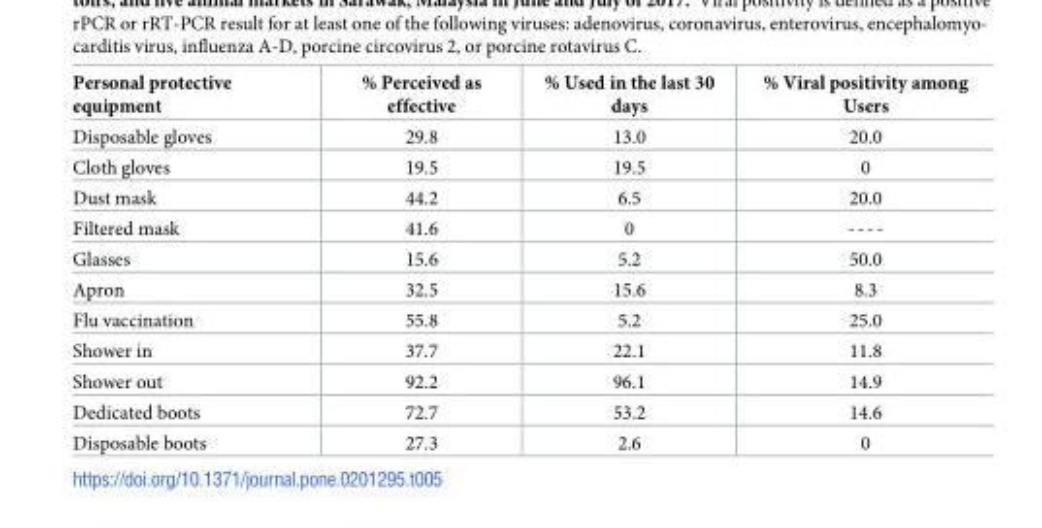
<table><thead><tr><td>Personal protective equipment</td><td>% Perceived as effective</td><td>% Used in the last 30 days</td><td>% Viral positivity among Users</td></tr></thead><tbody><tr><td>Disposable gloves</td><td>29.8</td><td>13.0</td><td>20.0</td></tr><tr><td>Cloth gloves</td><td>19.5</td><td>19.5</td><td>0</td></tr><tr><td>Dust mask</td><td>44.2</td><td>6.5</td><td>20.0</td></tr><tr><td>Filtered mask</td><td>41.6</td><td>0</td><td>----</td></tr><tr><td>Glasses</td><td>15.6</td><td>5.2</td><td>50.0</td></tr><tr><td>Apron</td><td>32.5</td><td>15.6</td><td>8.3</td></tr><tr><td>Flu vaccination</td><td>55.8</td><td>5.2</td><td>25.0</td></tr><tr><td>Shower in</td><td>37.7</td><td>22.1</td><td>11.8</td></tr><tr><td>Shower out</td><td>92.2</td><td>96.1</td><td>14.9</td></tr><tr><td>Dedicated boots</td><td>72.7</td><td>53.2</td><td>14.6</td></tr><tr><td>Disposable boots</td><td>27.3</td><td>2.6</td><td>0</td></tr></tbody></table>